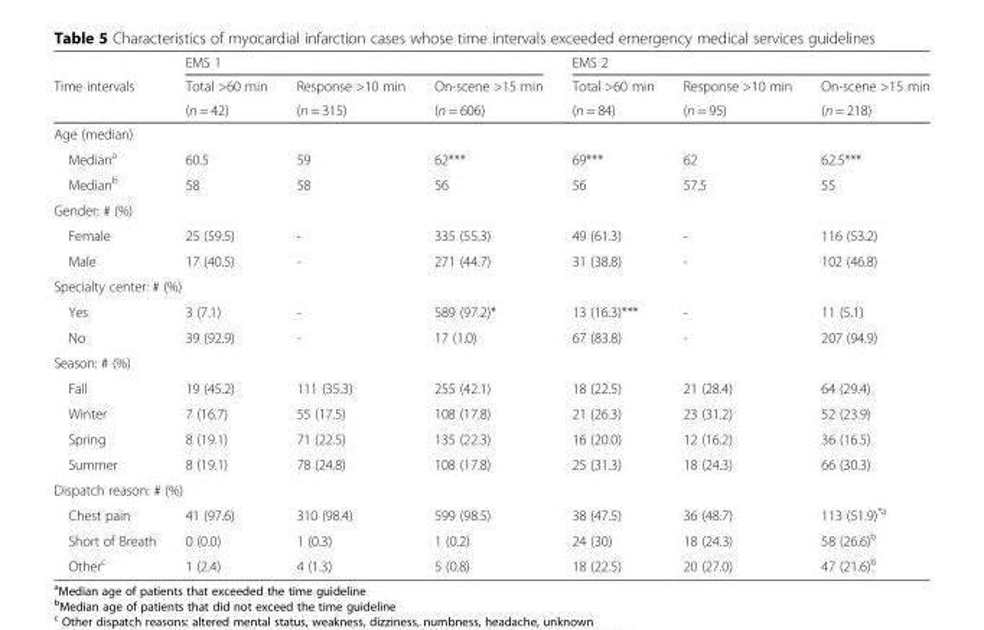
<table><thead><tr><td rowspan="3">Time intervals</td><td colspan="3">EMS 1</td><td colspan="3">EMS 2</td></tr><tr><td rowspan="2">Total &gt;60 min (n = 42)</td><td rowspan="2">Response &gt;10 min (n = 315)</td><td rowspan="2">On-scene &gt;15 min (n = 606)</td><td rowspan="2">Total &gt;60 min (n = 84)</td><td rowspan="2">Response &gt;10 min (n = 95)</td><td rowspan="2">On-scene &gt;15 min (n = 218)</td></tr><tr></tr></thead><tbody><tr><td colspan="7">Age (median)</td></tr><tr><td>Median<sup>a</sup></td><td>60.5</td><td>59</td><td>62***</td><td>69***</td><td>62</td><td>62.5***</td></tr><tr><td>Median<sup>b</sup></td><td>58</td><td>58</td><td>56</td><td>56</td><td>57.5</td><td>55</td></tr><tr><td colspan="7">Gender: # (%)</td></tr><tr><td>Female</td><td>25 (59.5)</td><td>-</td><td>335 (55.3)</td><td>49 (61.3)</td><td>-</td><td>116 (53.2)</td></tr><tr><td>Male</td><td>17 (40.5)</td><td>-</td><td>271 (44.7)</td><td>31 (38.8)</td><td>-</td><td>102 (46.8)</td></tr><tr><td colspan="7">Specialty center: # (%)</td></tr><tr><td>Yes</td><td>3 (7.1)</td><td>-</td><td>589 (97.2)*</td><td>13 (16.3)***</td><td>-</td><td>11 (5.1)</td></tr><tr><td>No</td><td>39 (92.9)</td><td>-</td><td>17 (1.0)</td><td>67 (83.8)</td><td>-</td><td>207 (94.9)</td></tr><tr><td colspan="7">Season: # (%)</td></tr><tr><td>Fall</td><td>19 (45.2)</td><td>111 (35.3)</td><td>255 (42.1)</td><td>18 (22.5)</td><td>21 (28.4)</td><td>64 (29.4)</td></tr><tr><td>Winter</td><td>7 (16.7)</td><td>55 (17.5)</td><td>108 (17.8)</td><td>21 (26.3)</td><td>23 (31.2)</td><td>52 (23.9)</td></tr><tr><td>Spring</td><td>8 (19.1)</td><td>71 (22.5)</td><td>135 (22.3)</td><td>16 (20.0)</td><td>12 (16.2)</td><td>36 (16.5)</td></tr><tr><td>Summer</td><td>8 (19.1)</td><td>78 (24.8)</td><td>108 (17.8)</td><td>25 (31.3)</td><td>18 (24.3)</td><td>66 (30.3)</td></tr><tr><td colspan="7">Dispatch reason: # (%)</td></tr><tr><td>Chest pain</td><td>41 (97.6)</td><td>310 (98.4)</td><td>599 (98.5)</td><td>38 (47.5)</td><td>36 (48.7)</td><td>113 (51.9)<sup>*a</sup></td></tr><tr><td>Short of Breath</td><td>0 (0.0)</td><td>1 (0.3)</td><td>1 (0.2)</td><td>24 (30)</td><td>18 (24.3)</td><td>58 (26.6)<sup>b</sup></td></tr><tr><td>Other<sup>c</sup></td><td>1 (2.4)</td><td>4 (1.3)</td><td>5 (0.8)</td><td>18 (22.5)</td><td>20 (27.0)</td><td>47 (21.6)<sup>b</sup></td></tr></tbody></table>